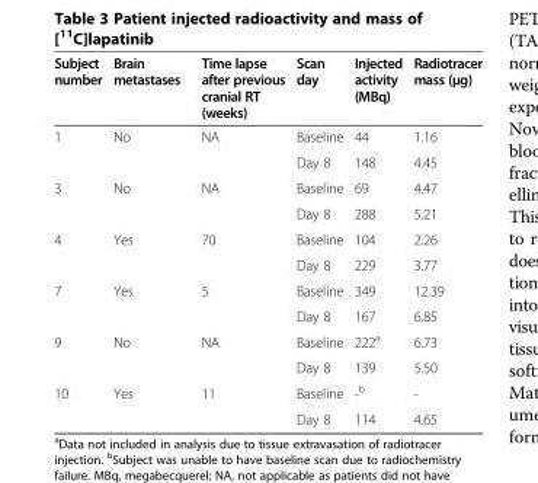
<table><thead><tr><td>Subject number</td><td>Brain metastases</td><td>Time lapse after previous cranial RT (weeks)</td><td>Scan day</td><td>Injected activity (MBq)</td><td>Radiotracer mass (μg)</td></tr></thead><tbody><tr><td rowspan="2">1</td><td rowspan="2">No</td><td>NA</td><td>Baseline</td><td>44</td><td>1.16</td></tr><tr><td></td><td>Day 8</td><td>148</td><td>4.45</td></tr><tr><td rowspan="2">3</td><td rowspan="2">No</td><td>NA</td><td>Baseline</td><td>69</td><td>4.47</td></tr><tr><td></td><td>Day 8</td><td>288</td><td>5.21</td></tr><tr><td rowspan="2">4</td><td rowspan="2">Yes</td><td>70</td><td>Baseline</td><td>104</td><td>2.26</td></tr><tr><td></td><td>Day 8</td><td>229</td><td>3.77</td></tr><tr><td rowspan="2">7</td><td rowspan="2">Yes</td><td>5</td><td>Baseline</td><td>349</td><td>12.39</td></tr><tr><td></td><td>Day 8</td><td>167</td><td>6.85</td></tr><tr><td rowspan="2">9</td><td rowspan="2">No</td><td>NA</td><td>Baseline</td><td>222<sup>a</sup></td><td>6.73</td></tr><tr><td></td><td>Day 8</td><td>139</td><td>5.50</td></tr><tr><td rowspan="2">10</td><td rowspan="2">Yes</td><td>11</td><td>Baseline</td><td>-<sup>b</sup></td><td>-</td></tr><tr><td></td><td>Day 8</td><td>114</td><td>4.65</td></tr></tbody></table>